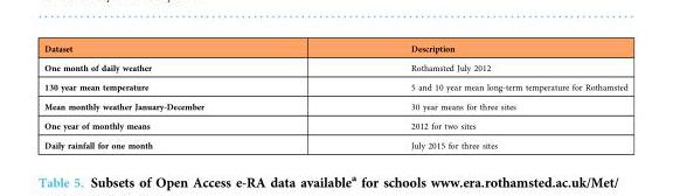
<table><thead><tr><td>Dataset</td><td>Description</td></tr></thead><tbody><tr><td>One month of daily weather</td><td>Rothamsted July 2012</td></tr><tr><td>130 year mean temperature</td><td>5 and 10 year mean long-term temperature for Rothamsted</td></tr><tr><td>Mean monthly weather January-December</td><td>30 year means for three sites</td></tr><tr><td>One year of monthly means</td><td>2012 for two sites</td></tr><tr><td>Daily rainfall for one month</td><td>July 2015 for three sites</td></tr></tbody></table>